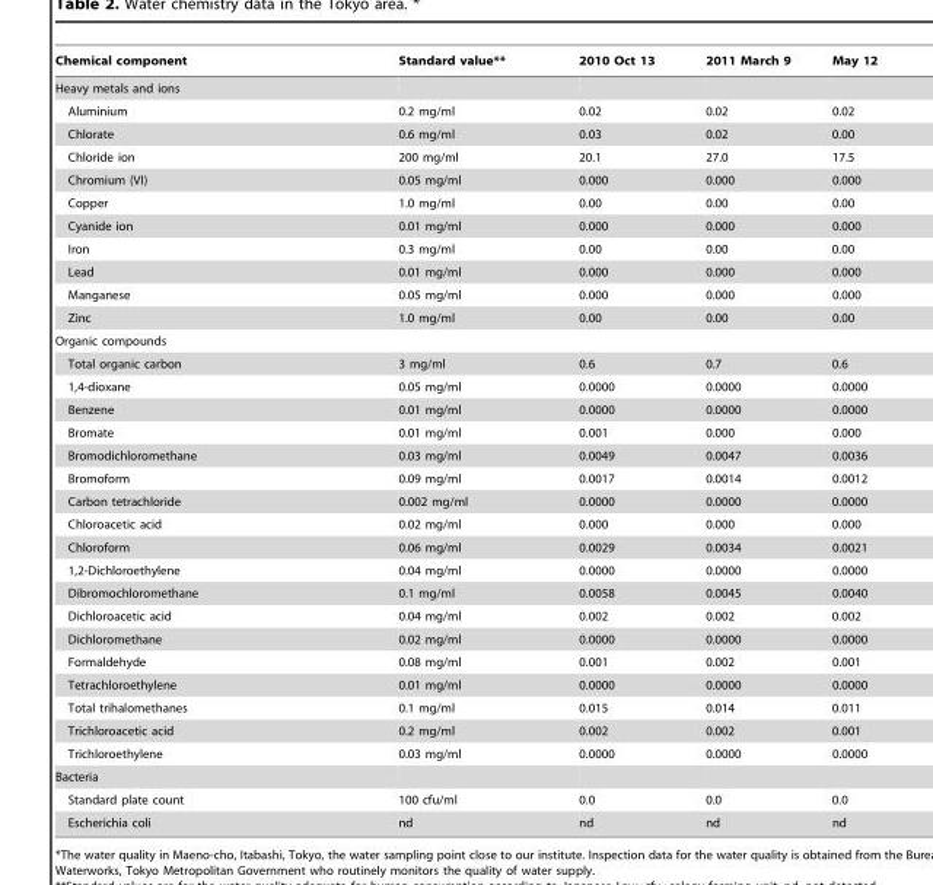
<table><thead><tr><td>Chemical component</td><td>Standard value**</td><td>2010 Oct 13</td><td>2011 March 9</td><td>May 12</td></tr></thead><tbody><tr><td colspan="5">Heavy metals and ions</td></tr><tr><td>Aluminium</td><td>0.2 mg/ml</td><td>0.02</td><td>0.02</td><td>0.02</td></tr><tr><td>Chlorate</td><td>0.6 mg/ml</td><td>0.03</td><td>0.02</td><td>0.00</td></tr><tr><td>Chloride ion</td><td>200 mg/ml</td><td>20.1</td><td>27.0</td><td>17.5</td></tr><tr><td>Chromium (VI)</td><td>0.05 mg/ml</td><td>0.000</td><td>0.000</td><td>0.000</td></tr><tr><td>Copper</td><td>1.0 mg/ml</td><td>0.00</td><td>0.00</td><td>0.00</td></tr><tr><td>Cyanide ion</td><td>0.01 mg/ml</td><td>0.000</td><td>0.000</td><td>0.000</td></tr><tr><td>Iron</td><td>0.3 mg/ml</td><td>0.00</td><td>0.00</td><td>0.00</td></tr><tr><td>Lead</td><td>0.01 mg/ml</td><td>0.000</td><td>0.000</td><td>0.000</td></tr><tr><td>Manganese</td><td>0.05 mg/ml</td><td>0.000</td><td>0.000</td><td>0.000</td></tr><tr><td>Zinc</td><td>1.0 mg/ml</td><td>0.00</td><td>0.00</td><td>0.00</td></tr><tr><td colspan="5">Organic compounds</td></tr><tr><td>Total organic carbon</td><td>3 mg/ml</td><td>0.6</td><td>0.7</td><td>0.6</td></tr><tr><td>1,4-dioxane</td><td>0.05 mg/ml</td><td>0.0000</td><td>0.0000</td><td>0.0000</td></tr><tr><td>Benzene</td><td>0.01 mg/ml</td><td>0.0000</td><td>0.0000</td><td>0.0000</td></tr><tr><td>Bromate</td><td>0.01 mg/ml</td><td>0.001</td><td>0.000</td><td>0.000</td></tr><tr><td>Bromodichloromethane</td><td>0.03 mg/ml</td><td>0.0049</td><td>0.0047</td><td>0.0036</td></tr><tr><td>Bromoform</td><td>0.09 mg/ml</td><td>0.0017</td><td>0.0014</td><td>0.0012</td></tr><tr><td>Carbon tetrachloride</td><td>0.002 mg/ml</td><td>0.0000</td><td>0.0000</td><td>0.0000</td></tr><tr><td>Chloroacetic acid</td><td>0.02 mg/ml</td><td>0.000</td><td>0.000</td><td>0.000</td></tr><tr><td>Chloroform</td><td>0.06 mg/ml</td><td>0.0029</td><td>0.0034</td><td>0.0021</td></tr><tr><td>1,2-Dichloroethylene</td><td>0.04 mg/ml</td><td>0.0000</td><td>0.0000</td><td>0.0000</td></tr><tr><td>Dibromochloromethane</td><td>0.1 mg/ml</td><td>0.0058</td><td>0.0045</td><td>0.0040</td></tr><tr><td>Dichloroacetic acid</td><td>0.04 mg/ml</td><td>0.002</td><td>0.002</td><td>0.002</td></tr><tr><td>Dichloromethane</td><td>0.02 mg/ml</td><td>0.0000</td><td>0.0000</td><td>0.0000</td></tr><tr><td>Formaldehyde</td><td>0.08 mg/ml</td><td>0.001</td><td>0.002</td><td>0.001</td></tr><tr><td>Tetrachloroethylene</td><td>0.01 mg/ml</td><td>0.0000</td><td>0.0000</td><td>0.0000</td></tr><tr><td>Total trihalomethanes</td><td>0.1 mg/ml</td><td>0.015</td><td>0.014</td><td>0.011</td></tr><tr><td>Trichloroacetic acid</td><td>0.2 mg/ml</td><td>0.002</td><td>0.002</td><td>0.001</td></tr><tr><td>Trichloroethylene</td><td>0.03 mg/ml</td><td>0.0000</td><td>0.0000</td><td>0.0000</td></tr><tr><td colspan="5">Bacteria</td></tr><tr><td>Standard plate count</td><td>100 cfu/ml</td><td>0.0</td><td>0.0</td><td>0.0</td></tr><tr><td>Escherichia coli</td><td>nd</td><td>nd</td><td>nd</td><td>nd</td></tr></tbody></table>